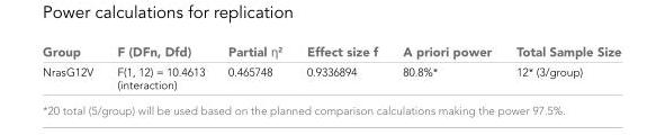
<table><thead><tr><td>Group</td><td>F (DFn, Dfd)</td><td>Partial η<sup>2</sup></td><td>Effect size f</td><td>A priori power</td><td>Total Sample Size</td></tr></thead><tbody><tr><td>NrasG12V</td><td>F(1, 12) = 10.4613 (interaction)</td><td>0.465748</td><td>0.9336894</td><td>80.8%*</td><td>12* (3/group)</td></tr></tbody></table>